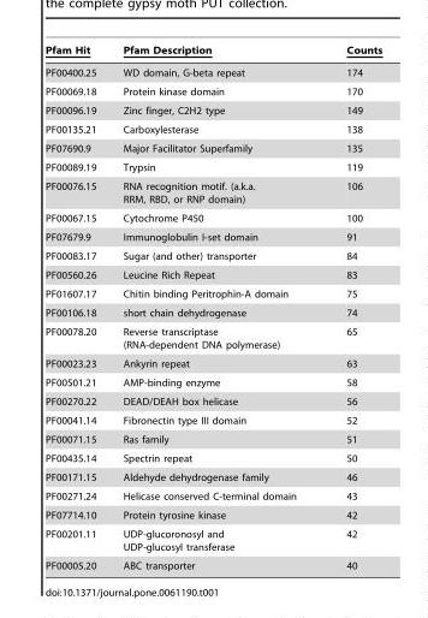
<table><thead><tr><td>Pfam Hit</td><td>Pfam Description</td><td>Counts</td></tr></thead><tbody><tr><td>PF00400.25</td><td>WD domain, G-beta repeat</td><td>174</td></tr><tr><td>PF00069.18</td><td>Protein kinase domain</td><td>170</td></tr><tr><td>PF00096.19</td><td>Zinc finger, C2H2 type</td><td>149</td></tr><tr><td>PF00135.21</td><td>Carboxylesterase</td><td>138</td></tr><tr><td>PF07690.9</td><td>Major Facilitator Superfamily</td><td>135</td></tr><tr><td>PF00089.19</td><td>Trypsin</td><td>119</td></tr><tr><td>PF00076.15</td><td>RNA recognition motif. (a.k.a. RRM, RBD, or RNP domain)</td><td>106</td></tr><tr><td>PF00067.15</td><td>Cytochrome P450</td><td>100</td></tr><tr><td>PF07679.9</td><td>Immunoglobulin I-set domain</td><td>91</td></tr><tr><td>PF00083.17</td><td>Sugar (and other) transporter</td><td>84</td></tr><tr><td>PF00560.26</td><td>Leucine Rich Repeat</td><td>83</td></tr><tr><td>PF01607.17</td><td>Chitin binding Peritrophin-A domain</td><td>75</td></tr><tr><td>PF00106.18</td><td>short chain dehydrogenase</td><td>74</td></tr><tr><td>PF00078.20</td><td>Reverse transcriptase (RNA-dependent DNA polymerase)</td><td>65</td></tr><tr><td>PF00023.23</td><td>Ankyrin repeat</td><td>63</td></tr><tr><td>PF00501.21</td><td>AMP-binding enzyme</td><td>58</td></tr><tr><td>PF00270.22</td><td>DEAD/DEAH box helicase</td><td>56</td></tr><tr><td>PF00041.14</td><td>Fibronectin type III domain</td><td>52</td></tr><tr><td>PF00071.15</td><td>Ras family</td><td>51</td></tr><tr><td>PF00435.14</td><td>Spectrin repeat</td><td>50</td></tr><tr><td>PF00171.15</td><td>Aldehyde dehydrogenase family</td><td>46</td></tr><tr><td>PF00271.24</td><td>Helicase conserved C-terminal domain</td><td>43</td></tr><tr><td>PF07714.10</td><td>Protein tyrosine kinase</td><td>42</td></tr><tr><td>PF00201.11</td><td>UDP-glucoronosyl and UDP-glucosyl transferase</td><td>42</td></tr><tr><td>PF00005.20</td><td>ABC transporter</td><td>40</td></tr></tbody></table>